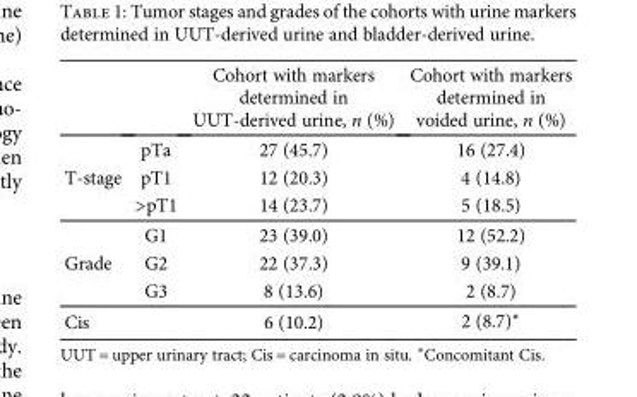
<table><thead><tr><td></td><td></td><td>Cohort with markers determined in UUT-derived urine, n (%)</td><td>Cohort with markers determined in voided urine, n (%)</td></tr></thead><tbody><tr><td rowspan="3">T-stage</td><td>pTa</td><td>27 (45.7)</td><td>16 (27.4)</td></tr><tr><td>pT1</td><td>12 (20.3)</td><td>4 (14.8)</td></tr><tr><td>&gt;pT1</td><td>14 (23.7)</td><td>5 (18.5)</td></tr><tr><td rowspan="3">Grade</td><td>G1</td><td>23 (39.0)</td><td>12 (52.2)</td></tr><tr><td>G2</td><td>22 (37.3)</td><td>9 (39.1)</td></tr><tr><td>G3</td><td>8 (13.6)</td><td>2 (8.7)</td></tr><tr><td colspan="2">Cis</td><td>6 (10.2)</td><td>2 (8.7)∗</td></tr></tbody></table>